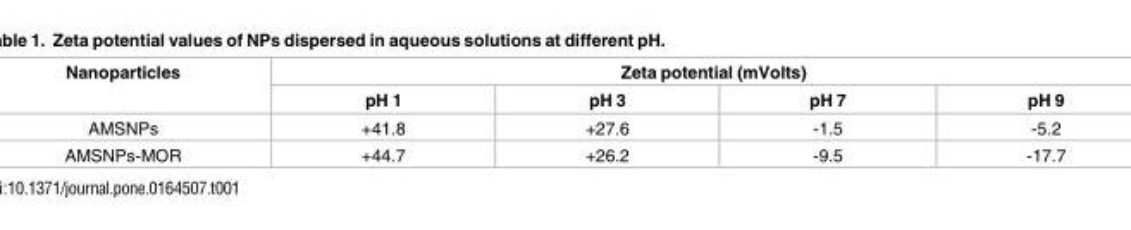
<table><thead><tr><td rowspan="2">Nanoparticles</td><td colspan="4">Zeta potential (mVolts)</td></tr><tr><td>pH 1</td><td>pH 3</td><td>pH 7</td><td>pH 9</td></tr></thead><tbody><tr><td>AMSNPs</td><td>+41.8</td><td>+27.6</td><td>-1.5</td><td>-5.2</td></tr><tr><td>AMSNPs-MOR</td><td>+44.7</td><td>+26.2</td><td>-9.5</td><td>-17.7</td></tr></tbody></table>